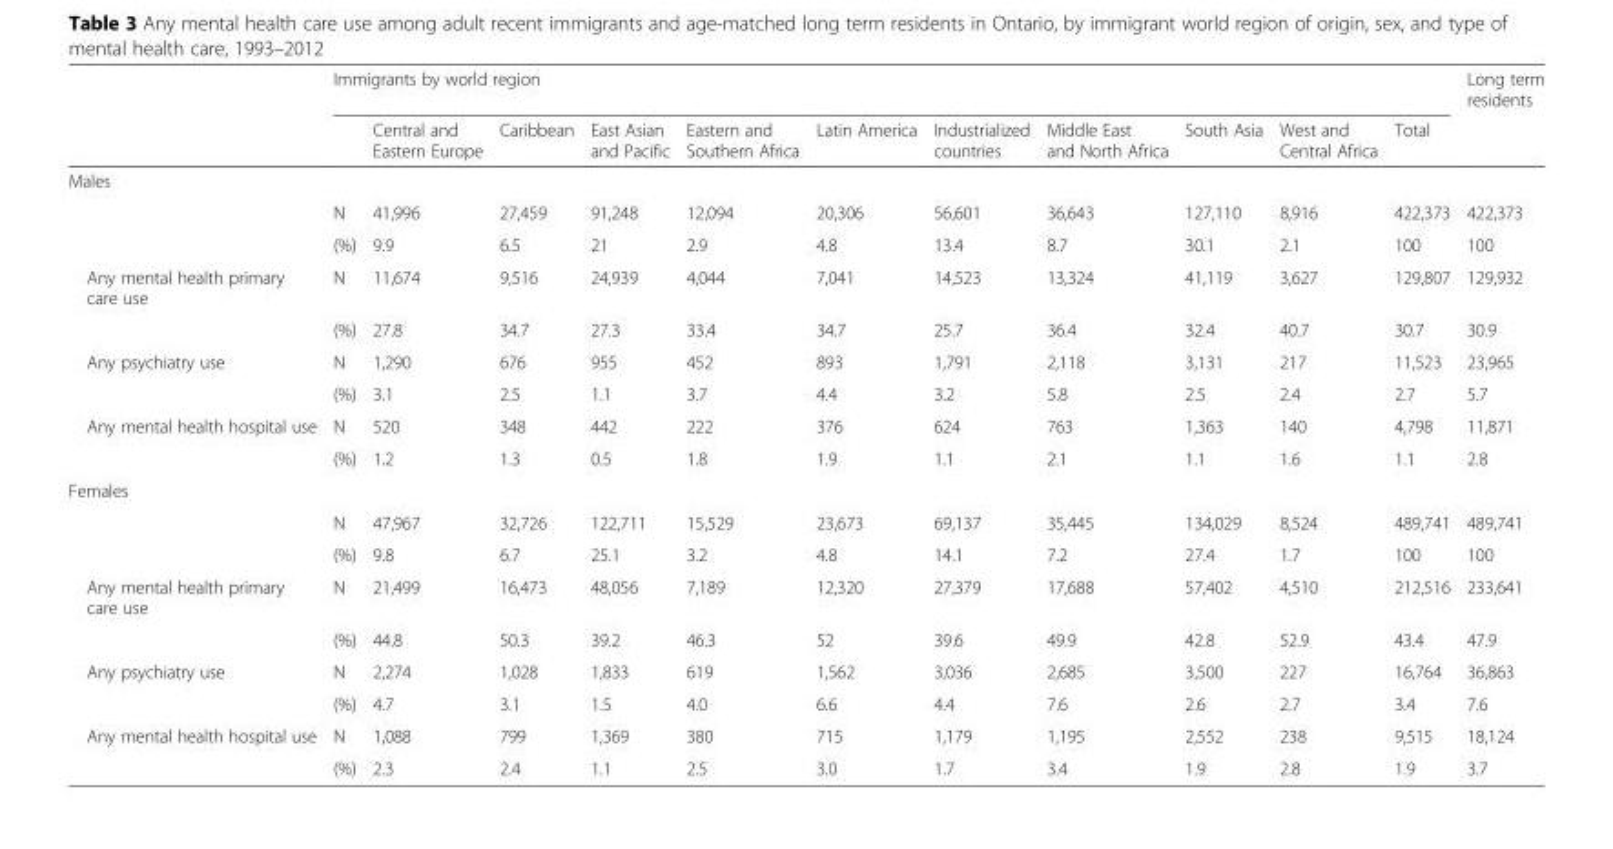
<table><thead><tr><td rowspan="2"></td><td colspan="11">Immigrants by world region</td><td rowspan="2">Long term residents</td></tr><tr><td></td><td>Central and Eastern Europe</td><td>Caribbean</td><td>East Asian and Pacific</td><td>Eastern and Southern Africa</td><td>Latin America</td><td>Industrialized countries</td><td>Middle East and North Africa</td><td>South Asia</td><td>West and Central Africa</td><td>Total</td></tr></thead><tbody><tr><td colspan="13">Males</td></tr><tr><td></td><td>N</td><td>41,996</td><td>27,459</td><td>91,248</td><td>12,094</td><td>20,306</td><td>56,601</td><td>36,643</td><td>127,110</td><td>8,916</td><td>422,373</td><td>422,373</td></tr><tr><td></td><td>(%)</td><td>9.9</td><td>6.5</td><td>21</td><td>2.9</td><td>4.8</td><td>13.4</td><td>8.7</td><td>30.1</td><td>2.1</td><td>100</td><td>100</td></tr><tr><td rowspan="2">Any mental health primary care use</td><td>N</td><td>11,674</td><td>9,516</td><td>24,939</td><td>4,044</td><td>7,041</td><td>14,523</td><td>13,324</td><td>41,119</td><td>3,627</td><td>129,807</td><td>129,932</td></tr><tr><td>(%)</td><td>27.8</td><td>34.7</td><td>27.3</td><td>33.4</td><td>34.7</td><td>25.7</td><td>36.4</td><td>32.4</td><td>40.7</td><td>30.7</td><td>30.9</td></tr><tr><td rowspan="2">Any psychiatry use</td><td>N</td><td>1,290</td><td>676</td><td>955</td><td>452</td><td>893</td><td>1,791</td><td>2,118</td><td>3,131</td><td>217</td><td>11,523</td><td>23,965</td></tr><tr><td>(%)</td><td>3.1</td><td>2.5</td><td>1.1</td><td>3.7</td><td>4.4</td><td>3.2</td><td>5.8</td><td>2.5</td><td>2.4</td><td>2.7</td><td>5.7</td></tr><tr><td rowspan="2">Any mental health hospital use</td><td>N</td><td>520</td><td>348</td><td>442</td><td>222</td><td>376</td><td>624</td><td>763</td><td>1,363</td><td>140</td><td>4,798</td><td>11,871</td></tr><tr><td>(%)</td><td>1.2</td><td>1.3</td><td>0.5</td><td>1.8</td><td>1.9</td><td>1.1</td><td>2.1</td><td>1.1</td><td>1.6</td><td>1.1</td><td>2.8</td></tr><tr><td colspan="13">Females</td></tr><tr><td></td><td>N</td><td>47,967</td><td>32,726</td><td>122,711</td><td>15,529</td><td>23,673</td><td>69,137</td><td>35,445</td><td>134,029</td><td>8,524</td><td>489,741</td><td>489,741</td></tr><tr><td></td><td>(%)</td><td>9.8</td><td>6.7</td><td>25.1</td><td>3.2</td><td>4.8</td><td>14.1</td><td>7.2</td><td>27.4</td><td>1.7</td><td>100</td><td>100</td></tr><tr><td rowspan="2">Any mental health primary care use</td><td>N</td><td>21,499</td><td>16,473</td><td>48,056</td><td>7,189</td><td>12,320</td><td>27,379</td><td>17,688</td><td>57,402</td><td>4,510</td><td>212,516</td><td>233,641</td></tr><tr><td>(%)</td><td>44.8</td><td>50.3</td><td>39.2</td><td>46.3</td><td>52</td><td>39.6</td><td>49.9</td><td>42.8</td><td>52.9</td><td>43.4</td><td>47.9</td></tr><tr><td rowspan="2">Any psychiatry use</td><td>N</td><td>2,274</td><td>1,028</td><td>1,833</td><td>619</td><td>1,562</td><td>3,036</td><td>2,685</td><td>3,500</td><td>227</td><td>16,764</td><td>36,863</td></tr><tr><td>(%)</td><td>4.7</td><td>3.1</td><td>1.5</td><td>4.0</td><td>6.6</td><td>4.4</td><td>7.6</td><td>2.6</td><td>2.7</td><td>3.4</td><td>7.6</td></tr><tr><td rowspan="2">Any mental health hospital use</td><td>N</td><td>1,088</td><td>799</td><td>1,369</td><td>380</td><td>715</td><td>1,179</td><td>1,195</td><td>2,552</td><td>238</td><td>9,515</td><td>18,124</td></tr><tr><td>(%)</td><td>2.3</td><td>2.4</td><td>1.1</td><td>2.5</td><td>3.0</td><td>1.7</td><td>3.4</td><td>1.9</td><td>2.8</td><td>1.9</td><td>3.7</td></tr></tbody></table>